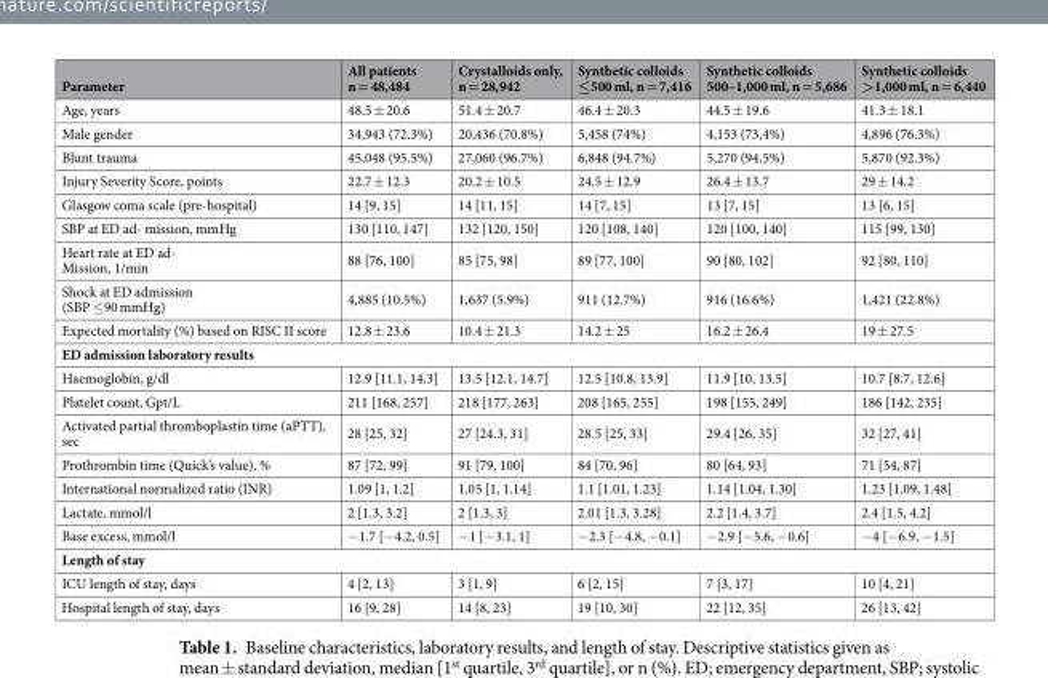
<table><thead><tr><td>Parameter</td><td>All patients n = 48,484</td><td>Crystalloids only, n = 28,942</td><td>Synthetic colloids ≤500 ml, n = 7,416</td><td>Synthetic colloids 500–1,000 ml, n = 5,686</td><td>Synthetic colloids &gt;1,000 ml, n = 6,440</td></tr></thead><tbody><tr><td>Age, years</td><td>48.5 ± 20.6</td><td>51.4 ± 20.7</td><td>46.4 ± 20.3</td><td>44.5 ± 19.6</td><td>41.3 ± 18.1</td></tr><tr><td>Male gender</td><td>34,943 (72.3%)</td><td>20,436 (70.8%)</td><td>5,458 (74%)</td><td>4,153 (73,4%)</td><td>4,896 (76.3%)</td></tr><tr><td>Blunt trauma</td><td>45,048 (95.5%)</td><td>27,060 (96.7%)</td><td>6,848 (94.7%)</td><td>5,270 (94.5%)</td><td>5,870 (92.3%)</td></tr><tr><td>Injury Severity Score, points</td><td>22.7 ± 12.3</td><td>20.2 ± 10.5</td><td>24.5 ± 12.9</td><td>26.4 ± 13.7</td><td>29 ± 14.2</td></tr><tr><td>Glasgow coma scale (pre-hospital)</td><td>14 [9, 15]</td><td>14 [11, 15]</td><td>14 [7, 15]</td><td>13 [7, 15]</td><td>13 [6, 15]</td></tr><tr><td>SBP at ED ad- mission, mmHg</td><td>130 [110, 147]</td><td>132 [120, 150]</td><td>120 [108, 140]</td><td>120 [100, 140]</td><td>115 [99, 130]</td></tr><tr><td>Heart rate at ED ad- Mission, 1/min</td><td>88 [76, 100]</td><td>85 [75, 98]</td><td>89 [77, 100]</td><td>90 [80, 102]</td><td>92 [80, 110]</td></tr><tr><td>Shock at ED admission (SBP ≤90 mmHg)</td><td>4,885 (10.5%)</td><td>1,637 (5.9%)</td><td>911 (12.7%)</td><td>916 (16.6%)</td><td>1,421 (22.8%)</td></tr><tr><td>Expected mortality (%) based on RISC II score</td><td>12.8 ± 23.6</td><td>10.4 ± 21.3</td><td>14.2 ± 25</td><td>16.2 ± 26.4</td><td>19 ± 27.5</td></tr><tr><td colspan="6">ED admission laboratory results</td></tr><tr><td>Haemoglobin, g/dl</td><td>12.9 [11.1, 14.3]</td><td>13.5 [12.1, 14.7]</td><td>12.5 [10.8, 13.9]</td><td>11.9 [10, 13.5]</td><td>10.7 [8.7, 12.6]</td></tr><tr><td>Platelet count, Gpt/L</td><td>211 [168, 257]</td><td>218 [177, 263]</td><td>208 [165, 255]</td><td>198 [155, 249]</td><td>186 [142, 235]</td></tr><tr><td>Activated partial thromboplastin time (aPTT), sec</td><td>28 [25, 32]</td><td>27 [24.3, 31]</td><td>28.5 [25, 33]</td><td>29.4 [26, 35]</td><td>32 [27, 41]</td></tr><tr><td>Prothrombin time (Quick’s value), %</td><td>87 [72, 99]</td><td>91 [79, 100]</td><td>84 [70, 96]</td><td>80 [64, 93]</td><td>71 [54, 87]</td></tr><tr><td>International normalized ratio (INR)</td><td>1.09 [1, 1.2]</td><td>1.05 [1, 1.14]</td><td>1.1 [1.01, 1.23]</td><td>1.14 [1.04, 1.30]</td><td>1.23 [1.09, 1.48]</td></tr><tr><td>Lactate, mmol/l</td><td>2 [1.3, 3.2]</td><td>2 [1.3, 3]</td><td>2.01 [1.3, 3.28]</td><td>2.2 [1.4, 3.7]</td><td>2.4 [1.5, 4.2]</td></tr><tr><td>Base excess, mmol/l</td><td>−1.7 [−4.2, 0.5]</td><td>−1 [−3.1, 1]</td><td>−2.3 [−4.8, −0.1]</td><td>−2.9 [−5.6, −0.6]</td><td>−4 [−6.9, −1.5]</td></tr><tr><td colspan="6">Length of stay</td></tr><tr><td>ICU length of stay, days</td><td>4 [2, 13]</td><td>3 [1, 9]</td><td>6 [2, 15]</td><td>7 [3, 17]</td><td>10 [4, 21]</td></tr><tr><td>Hospital length of stay, days</td><td>16 [9, 28]</td><td>14 [8, 23]</td><td>19 [10, 30]</td><td>22 [12, 35]</td><td>26 [13, 42]</td></tr></tbody></table>